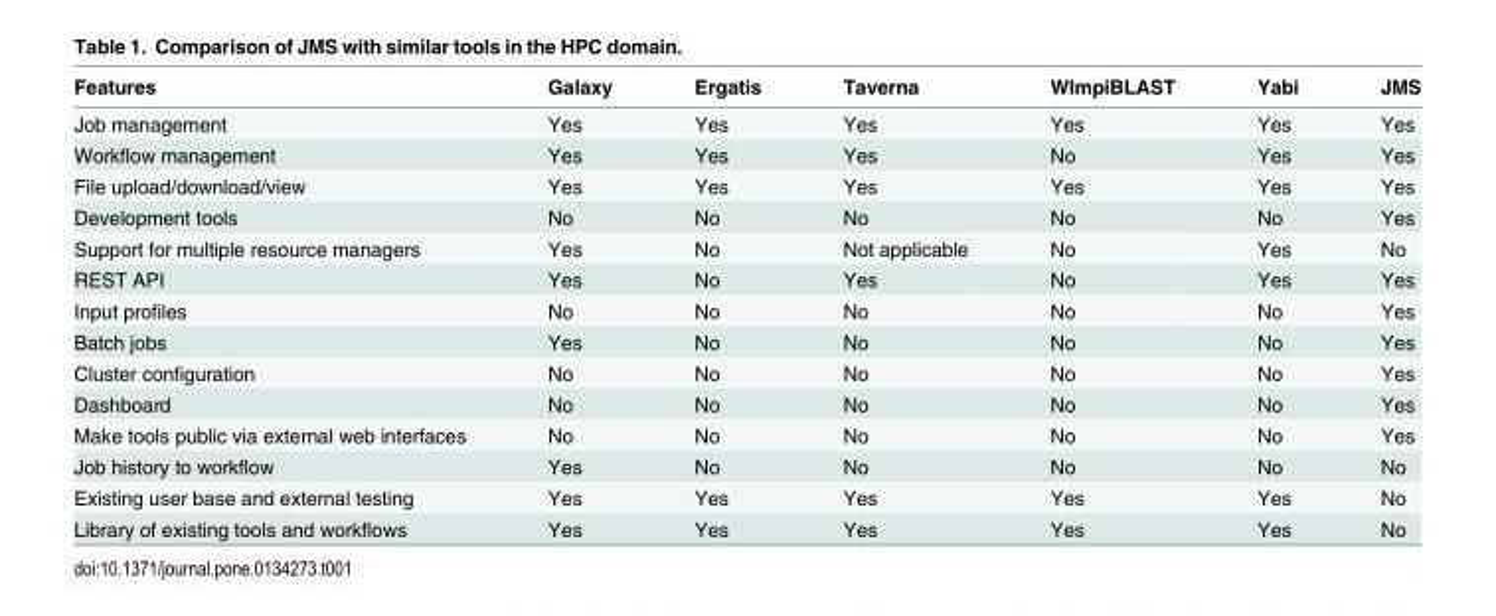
<table><thead><tr><td>Features</td><td>Galaxy</td><td>Ergatis</td><td>Taverna</td><td>WImpiBLAST</td><td>Yabi</td><td>JMS</td></tr></thead><tbody><tr><td>Job management</td><td>Yes</td><td>Yes</td><td>Yes</td><td>Yes</td><td>Yes</td><td>Yes</td></tr><tr><td>Workflow management</td><td>Yes</td><td>Yes</td><td>Yes</td><td>No</td><td>Yes</td><td>Yes</td></tr><tr><td>File upload/download/view</td><td>Yes</td><td>Yes</td><td>Yes</td><td>Yes</td><td>Yes</td><td>Yes</td></tr><tr><td>Development tools</td><td>No</td><td>No</td><td>No</td><td>No</td><td>No</td><td>Yes</td></tr><tr><td>Support for multiple resource managers</td><td>Yes</td><td>No</td><td>Not applicable</td><td>No</td><td>Yes</td><td>No</td></tr><tr><td>REST API</td><td>Yes</td><td>No</td><td>Yes</td><td>No</td><td>Yes</td><td>Yes</td></tr><tr><td>Input profiles</td><td>No</td><td>No</td><td>No</td><td>No</td><td>No</td><td>Yes</td></tr><tr><td>Batch jobs</td><td>Yes</td><td>No</td><td>No</td><td>No</td><td>No</td><td>Yes</td></tr><tr><td>Cluster configuration</td><td>No</td><td>No</td><td>No</td><td>No</td><td>No</td><td>Yes</td></tr><tr><td>Dashboard</td><td>No</td><td>No</td><td>No</td><td>No</td><td>No</td><td>Yes</td></tr><tr><td>Make tools public via external web interfaces</td><td>No</td><td>No</td><td>No</td><td>No</td><td>No</td><td>Yes</td></tr><tr><td>Job history to workflow</td><td>Yes</td><td>No</td><td>No</td><td>No</td><td>No</td><td>No</td></tr><tr><td>Existing user base and external testing</td><td>Yes</td><td>Yes</td><td>Yes</td><td>Yes</td><td>Yes</td><td>No</td></tr><tr><td>Library of existing tools and workflows</td><td>Yes</td><td>Yes</td><td>Yes</td><td>Yes</td><td>Yes</td><td>No</td></tr></tbody></table>